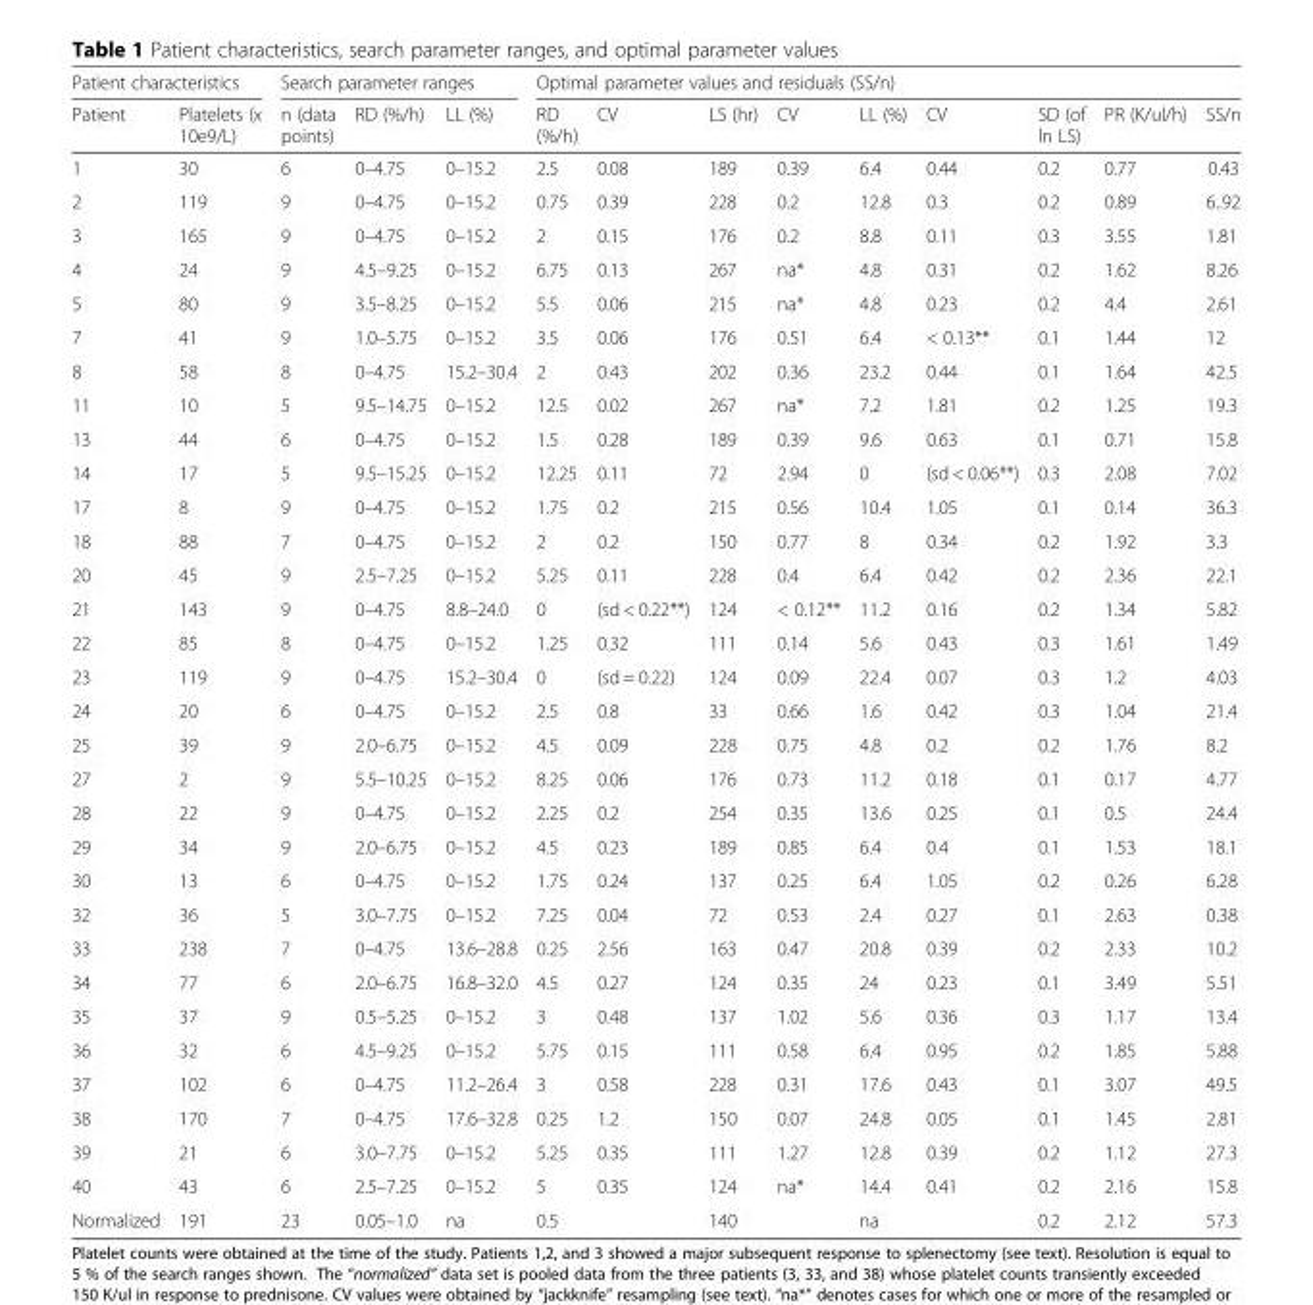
<table><thead><tr><td colspan="2">Patient characteristics</td><td colspan="3">Search parameter ranges</td><td colspan="9">Optimal parameter values and residuals (SS/n)</td></tr><tr><td>Patient</td><td>Platelets (x 10e9/L)</td><td>n (data points)</td><td>RD (%/h)</td><td>LL (%)</td><td>RD (%/h)</td><td>CV</td><td>LS (hr)</td><td>CV</td><td>LL (%)</td><td>CV</td><td>SD (of ln LS)</td><td>PR (K/ul/h)</td><td>SS/n</td></tr></thead><tbody><tr><td>1</td><td>30</td><td>6</td><td>0–4.75</td><td>0–15.2</td><td>2.5</td><td>0.08</td><td>189</td><td>0.39</td><td>6.4</td><td>0.44</td><td>0.2</td><td>0.77</td><td>0.43</td></tr><tr><td>2</td><td>119</td><td>9</td><td>0–4.75</td><td>0–15.2</td><td>0.75</td><td>0.39</td><td>228</td><td>0.2</td><td>12.8</td><td>0.3</td><td>0.2</td><td>0.89</td><td>6..92</td></tr><tr><td>3</td><td>165</td><td>9</td><td>0–4.75</td><td>0–15.2</td><td>2</td><td>0.15</td><td>176</td><td>0.2</td><td>8.8</td><td>0.11</td><td>0.3</td><td>3.55</td><td>1.81</td></tr><tr><td>4</td><td>24</td><td>9</td><td>4.5–9.25</td><td>0–15.2</td><td>6.75</td><td>0.13</td><td>267</td><td>na*</td><td>4.8</td><td>0.31</td><td>0.2</td><td>1.62</td><td>8.26</td></tr><tr><td>5</td><td>80</td><td>9</td><td>3.5–8.25</td><td>0–15.2</td><td>5.5</td><td>0.06</td><td>215</td><td>na*</td><td>4.8</td><td>0.23</td><td>0.2</td><td>4.4</td><td>2.61</td></tr><tr><td>7</td><td>41</td><td>9</td><td>1.0–5.75</td><td>0–15.2</td><td>3.5</td><td>0.06</td><td>176</td><td>0.51</td><td>6.4</td><td>&lt; 0.13**</td><td>0.1</td><td>1.44</td><td>12</td></tr><tr><td>8</td><td>58</td><td>8</td><td>0–4.75</td><td>15.2–30.4</td><td>2</td><td>0.43</td><td>202</td><td>0.36</td><td>23.2</td><td>0.44</td><td>0.1</td><td>1.64</td><td>42.5</td></tr><tr><td>11</td><td>10</td><td>5</td><td>9.5–14.75</td><td>0–15.2</td><td>12.5</td><td>0.02</td><td>267</td><td>na*</td><td>7.2</td><td>1.81</td><td>0.2</td><td>1.25</td><td>19.3</td></tr><tr><td>13</td><td>44</td><td>6</td><td>0–4.75</td><td>0–15.2</td><td>1.5</td><td>0.28</td><td>189</td><td>0.39</td><td>9.6</td><td>0.63</td><td>0.1</td><td>0.71</td><td>15.8</td></tr><tr><td>14</td><td>17</td><td>5</td><td>9.5–15.25</td><td>0–15.2</td><td>12.25</td><td>0.11</td><td>72</td><td>2.94</td><td>0</td><td>(sd &lt; 0.06**)</td><td>0.3</td><td>2.08</td><td>7.02</td></tr><tr><td>17</td><td>8</td><td>9</td><td>0–4.75</td><td>0–15.2</td><td>1.75</td><td>0.2</td><td>215</td><td>0.56</td><td>10.4</td><td>1.05</td><td>0.1</td><td>0.14</td><td>36.3</td></tr><tr><td>18</td><td>88</td><td>7</td><td>0–4.75</td><td>0–15.2</td><td>2</td><td>0.2</td><td>150</td><td>0.77</td><td>8</td><td>0.34</td><td>0.2</td><td>1.92</td><td>3.3</td></tr><tr><td>20</td><td>45</td><td>9</td><td>2.5–7.25</td><td>0–15.2</td><td>5.25</td><td>0.11</td><td>228</td><td>0.4</td><td>6.4</td><td>0.42</td><td>0.2</td><td>2.36</td><td>22.1</td></tr><tr><td>21</td><td>143</td><td>9</td><td>0–4.75</td><td>8.8–24.0</td><td>0</td><td>(sd &lt; 0.22**)</td><td>124</td><td>&lt; 0.12**</td><td>11.2</td><td>0.16</td><td>0.2</td><td>1.34</td><td>5.82</td></tr><tr><td>22</td><td>85</td><td>8</td><td>0–4.75</td><td>0–15.2</td><td>1.25</td><td>0.32</td><td>111</td><td>0.14</td><td>5.6</td><td>0.43</td><td>0.3</td><td>1.61</td><td>1.49</td></tr><tr><td>23</td><td>119</td><td>9</td><td>0–4.75</td><td>15.2–30.4</td><td>0</td><td>(sd = 0.22)</td><td>124</td><td>0.09</td><td>22.4</td><td>0.07</td><td>0.3</td><td>1.2</td><td>4.03</td></tr><tr><td>24</td><td>20</td><td>6</td><td>0–4.75</td><td>0–15.2</td><td>2.5</td><td>0.8</td><td>33</td><td>0.66</td><td>1.6</td><td>0.42</td><td>0.3</td><td>1.04</td><td>21.4</td></tr><tr><td>25</td><td>39</td><td>9</td><td>2.0–6.75</td><td>0–15.2</td><td>4.5</td><td>0.09</td><td>228</td><td>0.75</td><td>4.8</td><td>0.2</td><td>0.2</td><td>1.76</td><td>8.2</td></tr><tr><td>27</td><td>2</td><td>9</td><td>5.5–10.25</td><td>0–15.2</td><td>8.25</td><td>0.06</td><td>176</td><td>0.73</td><td>11.2</td><td>0.18</td><td>0.1</td><td>0.17</td><td>4.77</td></tr><tr><td>28</td><td>22</td><td>9</td><td>0–4.75</td><td>0–15.2</td><td>2.25</td><td>0.2</td><td>254</td><td>0.35</td><td>13.6</td><td>0.25</td><td>0.1</td><td>0.5</td><td>24.4</td></tr><tr><td>29</td><td>34</td><td>9</td><td>2.0–6.75</td><td>0–15.2</td><td>4.5</td><td>0.23</td><td>189</td><td>0.85</td><td>6.4</td><td>0.4</td><td>0.1</td><td>1.53</td><td>18.1</td></tr><tr><td>30</td><td>13</td><td>6</td><td>0–4.75</td><td>0–15.2</td><td>1.75</td><td>0.24</td><td>137</td><td>0.25</td><td>6.4</td><td>1.05</td><td>0.2</td><td>0.26</td><td>6.28</td></tr><tr><td>32</td><td>36</td><td>5</td><td>3.0–7.75</td><td>0–15.2</td><td>7.25</td><td>0.04</td><td>72</td><td>0.53</td><td>2.4</td><td>0.27</td><td>0.1</td><td>2.63</td><td>0.38</td></tr><tr><td>33</td><td>238</td><td>7</td><td>0–4.75</td><td>13.6–28.8</td><td>0.25</td><td>2.56</td><td>163</td><td>0.47</td><td>20.8</td><td>0.39</td><td>0.2</td><td>2.33</td><td>10.2</td></tr><tr><td>34</td><td>77</td><td>6</td><td>2.0–6.75</td><td>16.8–32.0</td><td>4.5</td><td>0.27</td><td>124</td><td>0.35</td><td>24</td><td>0.23</td><td>0.1</td><td>3.49</td><td>5.51</td></tr><tr><td>35</td><td>37</td><td>9</td><td>0.5–5.25</td><td>0–15.2</td><td>3</td><td>0.48</td><td>137</td><td>1.02</td><td>5.6</td><td>0.36</td><td>0.3</td><td>1.17</td><td>13.4</td></tr><tr><td>36</td><td>32</td><td>6</td><td>4.5–9.25</td><td>0–15.2</td><td>5.75</td><td>0.15</td><td>111</td><td>0.58</td><td>6.4</td><td>0.95</td><td>0.2</td><td>1.85</td><td>5.88</td></tr><tr><td>37</td><td>102</td><td>6</td><td>0–4.75</td><td>11.2–26.4</td><td>3</td><td>0.58</td><td>228</td><td>0.31</td><td>17.6</td><td>0.43</td><td>0.1</td><td>3.07</td><td>49.5</td></tr><tr><td>38</td><td>170</td><td>7</td><td>0–4.75</td><td>17.6–32.8</td><td>0.25</td><td>1.2</td><td>150</td><td>0.07</td><td>24.8</td><td>0.05</td><td>0.1</td><td>1.45</td><td>2.81</td></tr><tr><td>39</td><td>21</td><td>6</td><td>3.0–7.75</td><td>0–15.2</td><td>5.25</td><td>0.35</td><td>111</td><td>1.27</td><td>12.8</td><td>0.39</td><td>0.2</td><td>1.12</td><td>27.3</td></tr><tr><td>40</td><td>43</td><td>6</td><td>2.5–7.25</td><td>0–15.2</td><td>5</td><td>0.35</td><td>124</td><td>na*</td><td>14.4</td><td>0.41</td><td>0.2</td><td>2.16</td><td>15.8</td></tr><tr><td>Normalized</td><td>191</td><td>23</td><td>0.05–1.0</td><td>na</td><td>0.5</td><td></td><td>140</td><td></td><td>na</td><td></td><td>0.2</td><td>2.12</td><td>57.3</td></tr></tbody></table>